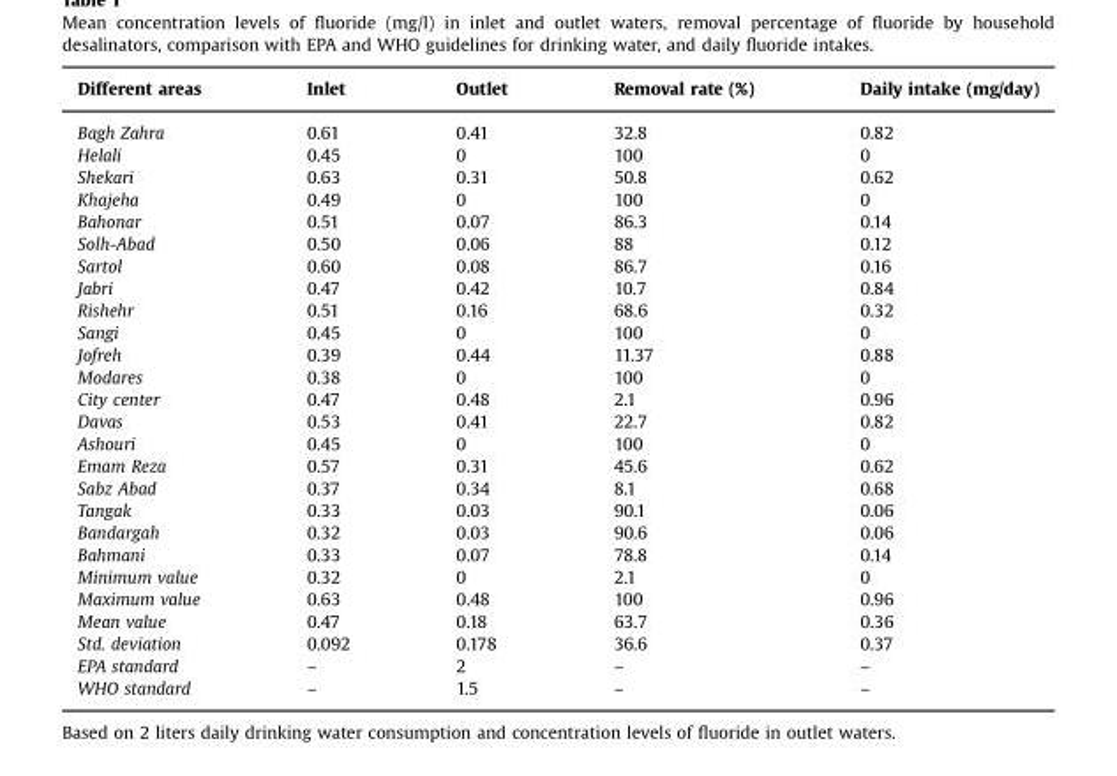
<table><thead><tr><td>Different areas</td><td>Inlet</td><td>Outlet</td><td>Removal rate (%)</td><td>Daily intake (mg/day)</td></tr></thead><tbody><tr><td>Bagh Zahra</td><td>0.61</td><td>0.41</td><td>32.8</td><td>0.82</td></tr><tr><td>Helali</td><td>0.45</td><td>0</td><td>100</td><td>0</td></tr><tr><td>Shekari</td><td>0.63</td><td>0.31</td><td>50.8</td><td>0.62</td></tr><tr><td>Khajeha</td><td>0.49</td><td>0</td><td>100</td><td>0</td></tr><tr><td>Bahonar</td><td>0.51</td><td>0.07</td><td>86.3</td><td>0.14</td></tr><tr><td>Solh-Abad</td><td>0.50</td><td>0.06</td><td>88</td><td>0.12</td></tr><tr><td>Sartol</td><td>0.60</td><td>0.08</td><td>86.7</td><td>0.16</td></tr><tr><td>Jabri</td><td>0.47</td><td>0.42</td><td>10.7</td><td>0.84</td></tr><tr><td>Rishehr</td><td>0.51</td><td>0.16</td><td>68.6</td><td>0.32</td></tr><tr><td>Sangi</td><td>0.45</td><td>0</td><td>100</td><td>0</td></tr><tr><td>Jofreh</td><td>0.39</td><td>0.44</td><td>11.37</td><td>0.88</td></tr><tr><td>Modares</td><td>0.38</td><td>0</td><td>100</td><td>0</td></tr><tr><td>City center</td><td>0.47</td><td>0.48</td><td>2.1</td><td>0.96</td></tr><tr><td>Davas</td><td>0.53</td><td>0.41</td><td>22.7</td><td>0.82</td></tr><tr><td>Ashouri</td><td>0.45</td><td>0</td><td>100</td><td>0</td></tr><tr><td>Emam Reza</td><td>0.57</td><td>0.31</td><td>45.6</td><td>0.62</td></tr><tr><td>Sabz Abad</td><td>0.37</td><td>0.34</td><td>8.1</td><td>0.68</td></tr><tr><td>Tangak</td><td>0.33</td><td>0.03</td><td>90.1</td><td>0.06</td></tr><tr><td>Bandargah</td><td>0.32</td><td>0.03</td><td>90.6</td><td>0.06</td></tr><tr><td>Bahmani</td><td>0.33</td><td>0.07</td><td>78.8</td><td>0.14</td></tr><tr><td>Minimum value</td><td>0.32</td><td>0</td><td>2.1</td><td>0</td></tr><tr><td>Maximum value</td><td>0.63</td><td>0.48</td><td>100</td><td>0.96</td></tr><tr><td>Mean value</td><td>0.47</td><td>0.18</td><td>63.7</td><td>0.36</td></tr><tr><td>Std. deviation</td><td>0.092</td><td>0.178</td><td>36.6</td><td>0.37</td></tr><tr><td>EPA standard</td><td>–</td><td>2</td><td>–</td><td>–</td></tr><tr><td>WHO standard</td><td>–</td><td>1.5</td><td>–</td><td>–</td></tr></tbody></table>